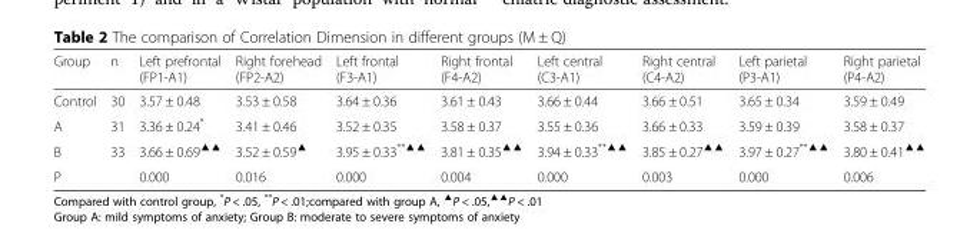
<table><thead><tr><td>Group</td><td>n</td><td>Left prefrontal (FP1-A1)</td><td>Right forehead (FP2-A2)</td><td>Left frontal (F3-A1)</td><td>Right frontal (F4-A2)</td><td>Left central (C3-A1)</td><td>Right central (C4-A2)</td><td>Left parietal (P3-A1)</td><td>Right parietal (P4-A2)</td></tr></thead><tbody><tr><td>Control</td><td>30</td><td>3.57 ± 0.48</td><td>3.53 ± 0.58</td><td>3.64 ± 0.36</td><td>3.61 ± 0.43</td><td>3.66 ± 0.44</td><td>3.66 ± 0.51</td><td>3.65 ± 0.34</td><td>3.59 ± 0.49</td></tr><tr><td>A</td><td>31</td><td>3.36 ± 0.24*</td><td>3.41 ± 0.46</td><td>3.52 ± 0.35</td><td>3.58 ± 0.37</td><td>3.55 ± 0.36</td><td>3.66 ± 0.33</td><td>3.59 ± 0.39</td><td>3.58 ± 0.37</td></tr><tr><td>B</td><td>33</td><td>3.66 ± 0.69<sup>▲▲</sup></td><td>3.52 ± 0.59<sup>▲</sup></td><td>3.95 ± 0.33<sup>**▲▲</sup></td><td>3.81 ± 0.35<sup>▲▲</sup></td><td>3.94 ± 0.33<sup>**▲▲</sup></td><td>3.85 ± 0.27<sup>▲▲</sup></td><td>3.97 ± 0.27<sup>**▲▲</sup></td><td>3.80 ± 0.41<sup>▲▲</sup></td></tr><tr><td>P</td><td></td><td>0.000</td><td>0.016</td><td>0.000</td><td>0.004</td><td>0.000</td><td>0.003</td><td>0.000</td><td>0.006</td></tr></tbody></table>